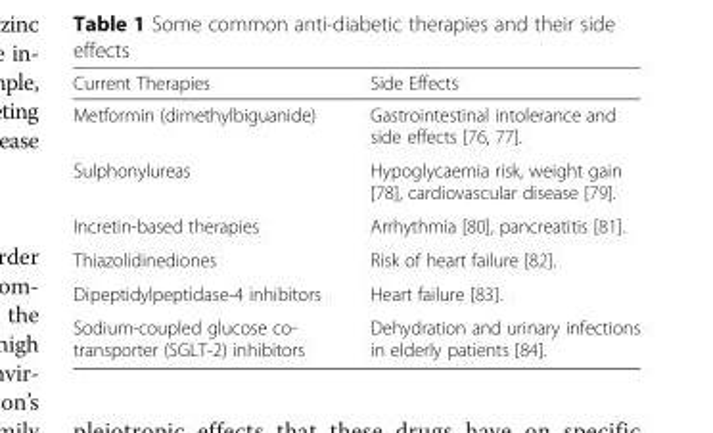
<table><thead><tr><td>Current Therapies</td><td>Side Effects</td></tr></thead><tbody><tr><td>Metformin (dimethylbiguanide)</td><td>Gastrointestinal intolerance and side effects [76, 77].</td></tr><tr><td>Sulphonylureas</td><td>Hypoglycaemia risk, weight gain [78], cardiovascular disease [79].</td></tr><tr><td>Incretin-based therapies</td><td>Arrhythmia [80], pancreatitis [81].</td></tr><tr><td>Thiazolidinediones</td><td>Risk of heart failure [82].</td></tr><tr><td>Dipeptidylpeptidase-4 inhibitors</td><td>Heart failure [83].</td></tr><tr><td>Sodium-coupled glucose co- transporter (SGLT-2) inhibitors</td><td>Dehydration and urinary infections in elderly patients [84].</td></tr></tbody></table>